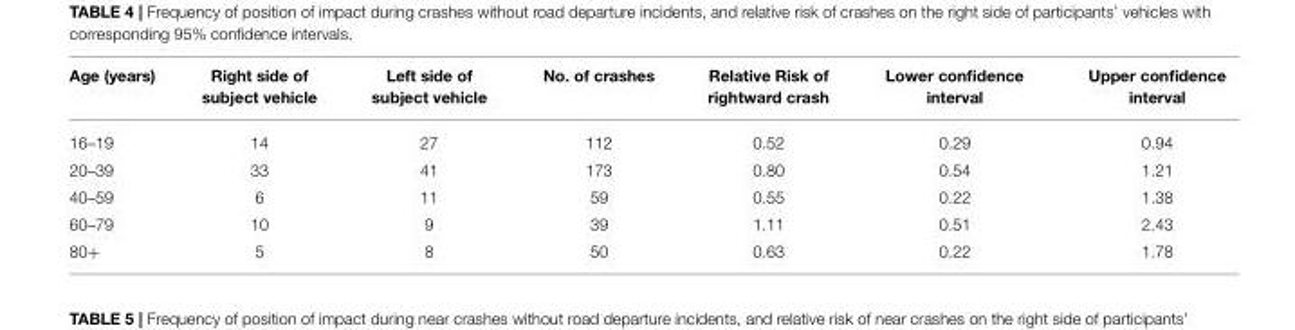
<table><thead><tr><td>Age (years)</td><td>Right side of subject vehicle</td><td>Left side of subject vehicle</td><td>No. of crashes</td><td>Relative Risk of rightward crash</td><td>Lower confidence interval</td><td>Upper confidence interval</td></tr></thead><tbody><tr><td>16–19</td><td>14</td><td>27</td><td>112</td><td>0.52</td><td>0.29</td><td>0.94</td></tr><tr><td>20–39</td><td>33</td><td>41</td><td>173</td><td>0.80</td><td>0.54</td><td>1.21</td></tr><tr><td>40–59</td><td>6</td><td>11</td><td>59</td><td>0.55</td><td>0.22</td><td>1.38</td></tr><tr><td>60–79</td><td>10</td><td>9</td><td>39</td><td>1.11</td><td>0.51</td><td>2.43</td></tr><tr><td>80+</td><td>5</td><td>8</td><td>50</td><td>0.63</td><td>0.22</td><td>1.78</td></tr></tbody></table>